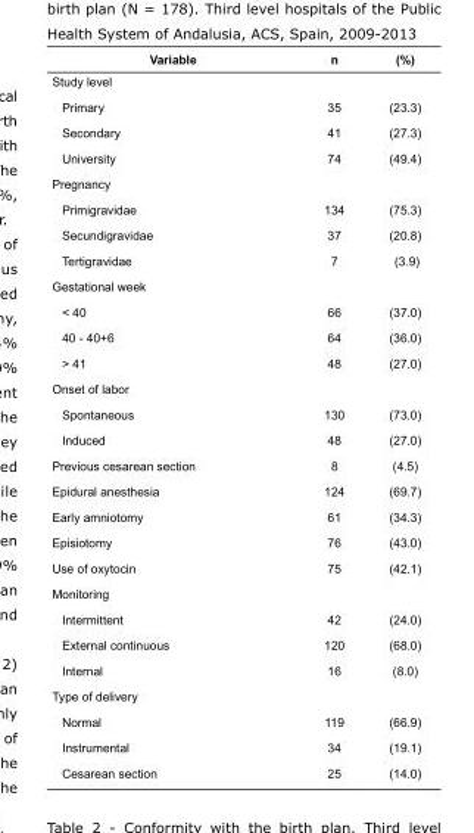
<table><tbody><tr><td>Variable</td><td>n</td><td>(%)</td></tr><tr><td colspan="3">Study level</td></tr><tr><td>Primary</td><td>35</td><td>(23.3)</td></tr><tr><td>Secondary</td><td>41</td><td>(27.3)</td></tr><tr><td>University</td><td>74</td><td>(49.4)</td></tr><tr><td colspan="3">Pregnancy</td></tr><tr><td>Primigravidae</td><td>134</td><td>(75.3)</td></tr><tr><td>Secundigravidae</td><td>37</td><td>(20.8)</td></tr><tr><td>Tertigravidae</td><td>7</td><td>(3.9)</td></tr><tr><td colspan="3">Gestational week</td></tr><tr><td>&lt; 40</td><td>66</td><td>(37.0)</td></tr><tr><td>40 - 40+6</td><td>64</td><td>(36.0)</td></tr><tr><td>&gt; 41</td><td>48</td><td>(27.0)</td></tr><tr><td colspan="3">Onset of labor</td></tr><tr><td>Spontaneous</td><td>130</td><td>(73.0)</td></tr><tr><td>Induced</td><td>48</td><td>(27.0)</td></tr><tr><td>Previous cesarean section</td><td>8</td><td>(4.5)</td></tr><tr><td>Epidural anesthesia</td><td>124</td><td>(69.7)</td></tr><tr><td>Early amniotomy</td><td>61</td><td>(34.3)</td></tr><tr><td>Episiotomy</td><td>76</td><td>(43.0)</td></tr><tr><td>Use of oxytocin</td><td>75</td><td>(42.1)</td></tr><tr><td colspan="3">Monitoring</td></tr><tr><td>Intermittent</td><td>42</td><td>(24.0)</td></tr><tr><td>External continuous</td><td>120</td><td>(68.0)</td></tr><tr><td>Internal</td><td>16</td><td>(8.0)</td></tr><tr><td colspan="3">Type of delivery</td></tr><tr><td>Normal</td><td>119</td><td>(66.9)</td></tr><tr><td>Instrumental</td><td>34</td><td>(19.1)</td></tr><tr><td>Cesarean section</td><td>25</td><td>(14.0)</td></tr></tbody></table>